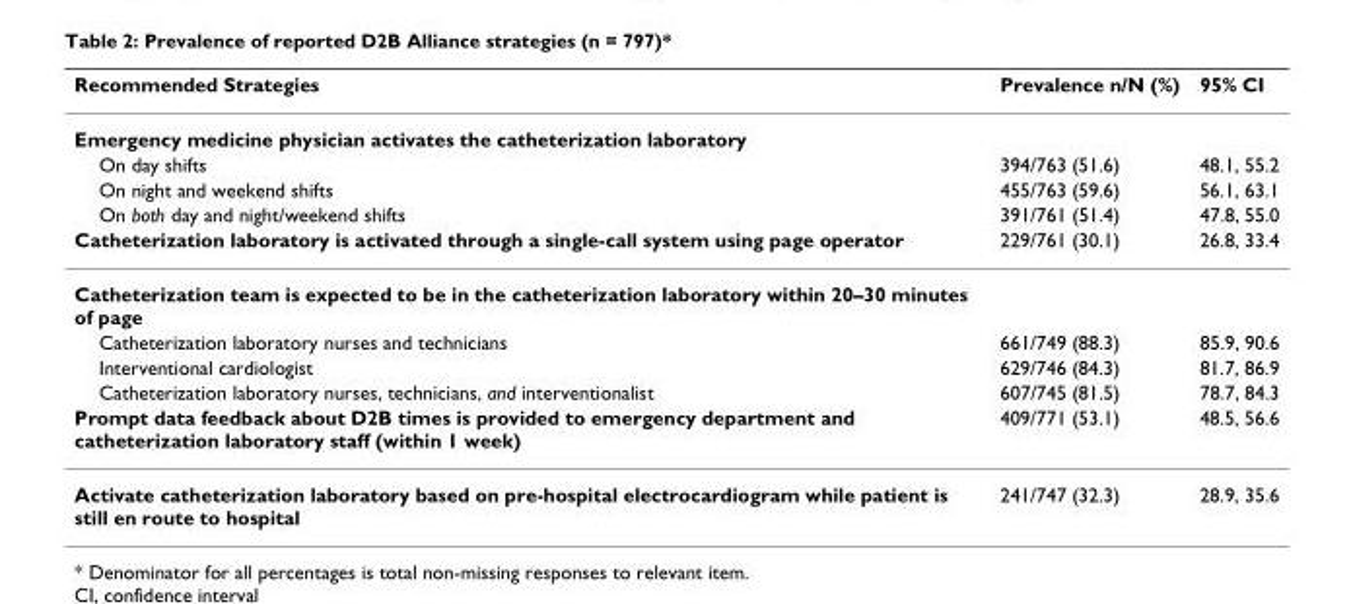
<table><thead><tr><td>Recommended Strategies</td><td>Prevalence n/N (%)</td><td>95% CI</td></tr></thead><tbody><tr><td colspan="3">Emergency medicine physician activates the catheterization laboratory</td></tr><tr><td>On day shifts</td><td>394/763 (51.6)</td><td>48.1, 55.2</td></tr><tr><td>On night and weekend shifts</td><td>455/763 (59.6)</td><td>56.1, 63.1</td></tr><tr><td>On both day and night/weekend shifts</td><td>391/761 (51.4)</td><td>47.8, 55.0</td></tr><tr><td>Catheterization laboratory is activated through a single-call system using page operator</td><td>229/761 (30.1)</td><td>26.8, 33.4</td></tr><tr><td colspan="3">Catheterization team is expected to be in the catheterization laboratory within 20–30 minutes of page</td></tr><tr><td>Catheterization laboratory nurses and technicians</td><td>661/749 (88.3)</td><td>85.9, 90.6</td></tr><tr><td>Interventional cardiologist</td><td>629/746 (84.3)</td><td>81.7, 86.9</td></tr><tr><td>Catheterization laboratory nurses, technicians, and interventionalist</td><td>607/745 (81.5)</td><td>78.7, 84.3</td></tr><tr><td>Prompt data feedback about D2B times is provided to emergency department and catheterization laboratory staff (within 1 week)</td><td>409/771 (53.1)</td><td>48.5, 56.6</td></tr><tr><td>Activate catheterization laboratory based on pre-hospital electrocardiogram while patient is still en route to hospital</td><td>241/747 (32.3)</td><td>28.9, 35.6</td></tr></tbody></table>